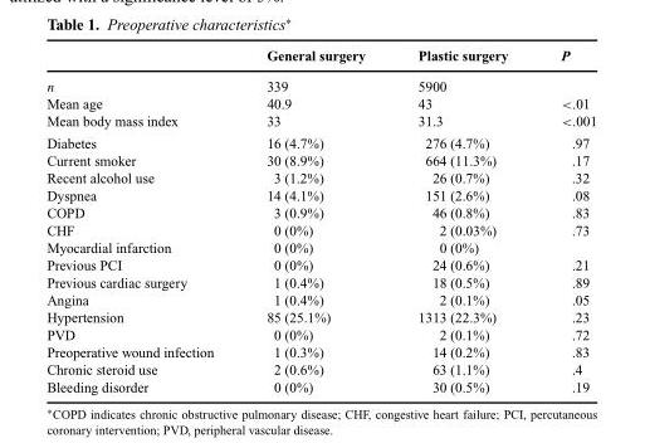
<table><thead><tr><td></td><td>General surgery</td><td>Plastic surgery</td><td>P</td></tr></thead><tbody><tr><td>n</td><td>339</td><td>5900</td><td></td></tr><tr><td>Mean age</td><td>40.9</td><td>43</td><td>&lt;.01</td></tr><tr><td>Mean body mass index</td><td>33</td><td>31.3</td><td>&lt;.001</td></tr><tr><td>Diabetes</td><td>16 (4.7%)</td><td>276 (4.7%)</td><td>.97</td></tr><tr><td>Current smoker</td><td>30 (8.9%)</td><td>664 (11.3%)</td><td>.17</td></tr><tr><td>Recent alcohol use</td><td>3 (1.2%)</td><td>26 (0.7%)</td><td>.32</td></tr><tr><td>Dyspnea</td><td>14 (4.1%)</td><td>151 (2.6%)</td><td>.08</td></tr><tr><td>COPD</td><td>3 (0.9%)</td><td>46 (0.8%)</td><td>.83</td></tr><tr><td>CHF</td><td>0 (0%)</td><td>2 (0.03%)</td><td>.73</td></tr><tr><td>Myocardial infarction</td><td>0 (0%)</td><td>0 (0%)</td><td></td></tr><tr><td>Previous PCI</td><td>0 (0%)</td><td>24 (0.6%)</td><td>.21</td></tr><tr><td>Previous cardiac surgery</td><td>1 (0.4%)</td><td>18 (0.5%)</td><td>.89</td></tr><tr><td>Angina</td><td>1 (0.4%)</td><td>2 (0.1%)</td><td>.05</td></tr><tr><td>Hypertension</td><td>85 (25.1%)</td><td>1313 (22.3%)</td><td>.23</td></tr><tr><td>PVD</td><td>0 (0%)</td><td>2 (0.1%)</td><td>.72</td></tr><tr><td>Preoperative wound infection</td><td>1 (0.3%)</td><td>14 (0.2%)</td><td>.83</td></tr><tr><td>Chronic steroid use</td><td>2 (0.6%)</td><td>63 (1.1%)</td><td>.4</td></tr><tr><td>Bleeding disorder</td><td>0 (0%)</td><td>30 (0.5%)</td><td>.19</td></tr></tbody></table>